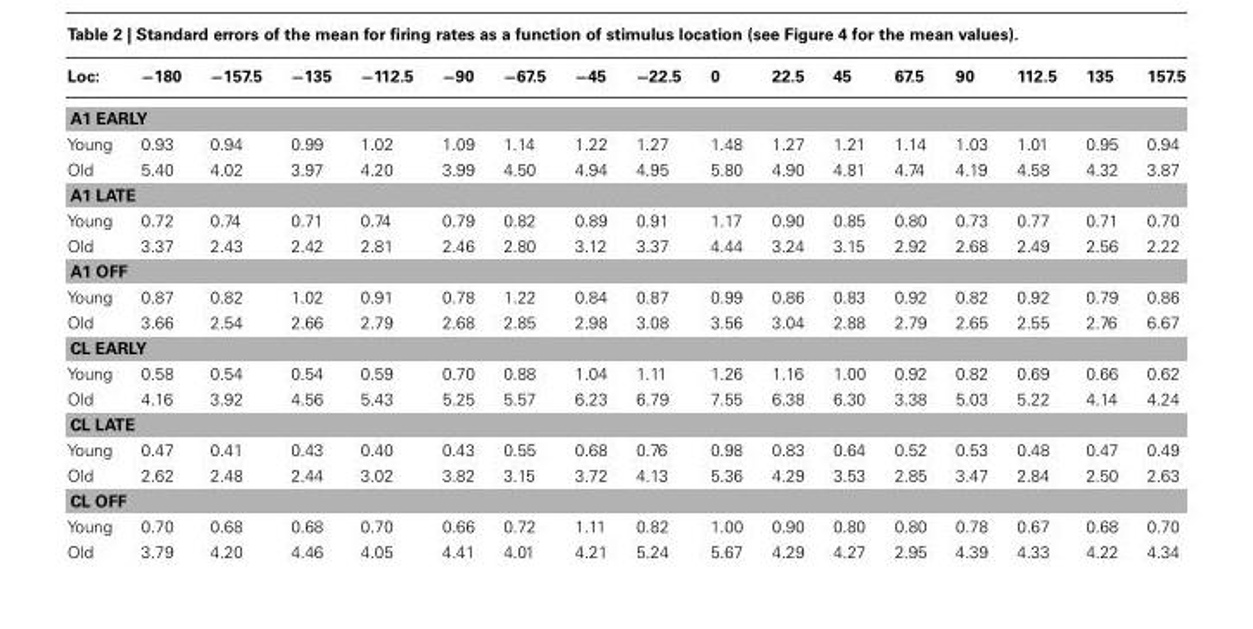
<table><thead><tr><td>Loc:</td><td>−180</td><td>−157.5</td><td>−135</td><td>−112.5</td><td>−90</td><td>−67.5</td><td>−45</td><td>−22.5</td><td>0</td><td>22.5</td><td>45</td><td>67.5</td><td>90</td><td>112.5</td><td>135</td><td>157.5</td></tr></thead><tbody><tr><td colspan="17">A1 EARLY</td></tr><tr><td>Young</td><td>0.93</td><td>0.94</td><td>0.99</td><td>1.02</td><td>1.09</td><td>1.14</td><td>1.22</td><td>1.27</td><td>1.48</td><td>1.27</td><td>1.21</td><td>1.14</td><td>1.03</td><td>1.01</td><td>0.95</td><td>0.94</td></tr><tr><td>Old</td><td>5.40</td><td>4.02</td><td>3.97</td><td>4.20</td><td>3.99</td><td>4.50</td><td>4.94</td><td>4.95</td><td>5.80</td><td>4.90</td><td>4.81</td><td>4.74</td><td>4.19</td><td>4.58</td><td>4.32</td><td>3.87</td></tr><tr><td colspan="17">A1 LATE</td></tr><tr><td>Young</td><td>0.72</td><td>0.74</td><td>0.71</td><td>0.74</td><td>0.79</td><td>0.82</td><td>0.89</td><td>0.91</td><td>1.17</td><td>0.90</td><td>0.85</td><td>0.80</td><td>0.73</td><td>0.77</td><td>0.71</td><td>0.70</td></tr><tr><td>Old</td><td>3.37</td><td>2.43</td><td>2.42</td><td>2.81</td><td>2.46</td><td>2.80</td><td>3.12</td><td>3.37</td><td>4.44</td><td>3.24</td><td>3.15</td><td>2.92</td><td>2.68</td><td>2.49</td><td>2.56</td><td>2.22</td></tr><tr><td colspan="17">A1 OFF</td></tr><tr><td>Young</td><td>0.87</td><td>0.82</td><td>1.02</td><td>0.91</td><td>0.78</td><td>1.22</td><td>0.84</td><td>0.87</td><td>0.99</td><td>0.86</td><td>0.83</td><td>0.92</td><td>0.82</td><td>0.92</td><td>0.79</td><td>0.86</td></tr><tr><td>Old</td><td>3.66</td><td>2.54</td><td>2.66</td><td>2.79</td><td>2.68</td><td>2.85</td><td>2.98</td><td>3.08</td><td>3.56</td><td>3.04</td><td>2.88</td><td>2.79</td><td>2.65</td><td>2.55</td><td>2.76</td><td>6.67</td></tr><tr><td colspan="17">CL EARLY</td></tr><tr><td>Young</td><td>0.58</td><td>0.54</td><td>0.54</td><td>0.59</td><td>0.70</td><td>0.88</td><td>1.04</td><td>1.11</td><td>1.26</td><td>1.16</td><td>1.00</td><td>0.92</td><td>0.82</td><td>0.69</td><td>0.66</td><td>0.62</td></tr><tr><td>Old</td><td>4.16</td><td>3.92</td><td>4.56</td><td>5.43</td><td>5.25</td><td>5.57</td><td>6.23</td><td>6.79</td><td>7.55</td><td>6.38</td><td>6.30</td><td>3.38</td><td>5.03</td><td>5.22</td><td>4.14</td><td>4.24</td></tr><tr><td colspan="17">CL LATE</td></tr><tr><td>Young</td><td>0.47</td><td>0.41</td><td>0.43</td><td>0.40</td><td>0.43</td><td>0.55</td><td>0.68</td><td>0.76</td><td>0.98</td><td>0.83</td><td>0.64</td><td>0.52</td><td>0.53</td><td>0.48</td><td>0.47</td><td>0.49</td></tr><tr><td>Old</td><td>2.62</td><td>2.48</td><td>2.44</td><td>3.02</td><td>3.82</td><td>3.15</td><td>3.72</td><td>4.13</td><td>5.36</td><td>4.29</td><td>3.53</td><td>2.85</td><td>3.47</td><td>2.84</td><td>2.50</td><td>2.63</td></tr><tr><td colspan="17">CL OFF</td></tr><tr><td>Young</td><td>0.70</td><td>0.68</td><td>0.68</td><td>0.70</td><td>0.66</td><td>0.72</td><td>1.11</td><td>0.82</td><td>1.00</td><td>0.90</td><td>0.80</td><td>0.80</td><td>0.78</td><td>0.67</td><td>0.68</td><td>0.70</td></tr><tr><td>Old</td><td>3.79</td><td>4.20</td><td>4.46</td><td>4.05</td><td>4.41</td><td>4.01</td><td>4.21</td><td>5.24</td><td>5.67</td><td>4.29</td><td>4.27</td><td>2.95</td><td>4.39</td><td>4.33</td><td>4.22</td><td>4.34</td></tr></tbody></table>